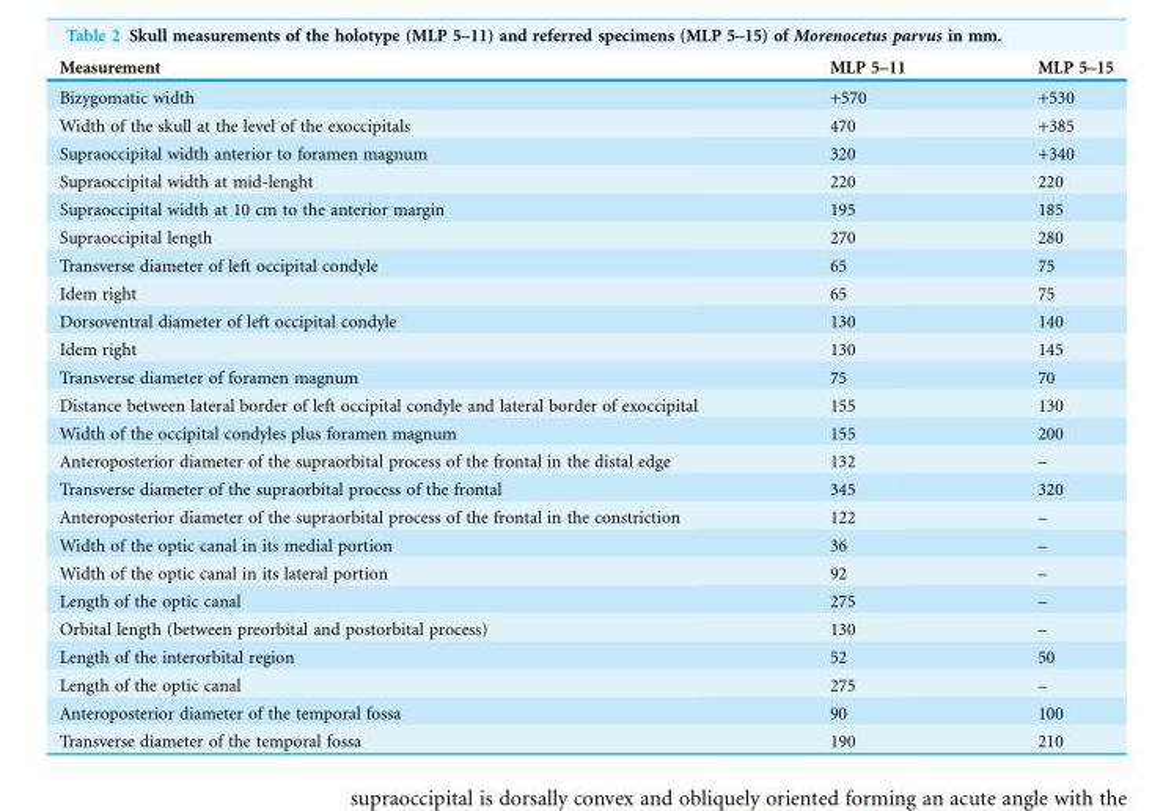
<table><thead><tr><td>Measurement</td><td>MLP 5–11</td><td>MLP 5–15</td></tr></thead><tbody><tr><td>Bizygomatic width</td><td>+570</td><td>+530</td></tr><tr><td>Width of the skull at the level of the exoccipitals</td><td>470</td><td>+385</td></tr><tr><td>Supraoccipital width anterior to foramen magnum</td><td>320</td><td>+340</td></tr><tr><td>Supraoccipital width at mid-lenght</td><td>220</td><td>220</td></tr><tr><td>Supraoccipital width at 10 cm to the anterior margin</td><td>195</td><td>185</td></tr><tr><td>Supraoccipital length</td><td>270</td><td>280</td></tr><tr><td>Transverse diameter of left occipital condyle</td><td>65</td><td>75</td></tr><tr><td>Idem right</td><td>65</td><td>75</td></tr><tr><td>Dorsoventral diameter of left occipital condyle</td><td>130</td><td>140</td></tr><tr><td>Idem right</td><td>130</td><td>145</td></tr><tr><td>Transverse diameter of foramen magnum</td><td>75</td><td>70</td></tr><tr><td>Distance between lateral border of left occipital condyle and lateral border of exoccipital</td><td>155</td><td>130</td></tr><tr><td>Width of the occipital condyles plus foramen magnum</td><td>155</td><td>200</td></tr><tr><td>Anteroposterior diameter of the supraorbital process of the frontal in the distal edge</td><td>132</td><td>–</td></tr><tr><td>Transverse diameter of the supraorbital process of the frontal</td><td>345</td><td>320</td></tr><tr><td>Anteroposterior diameter of the supraorbital process of the frontal in the constriction</td><td>122</td><td>–</td></tr><tr><td>Width of the optic canal in its medial portion</td><td>36</td><td>–</td></tr><tr><td>Width of the optic canal in its lateral portion</td><td>92</td><td>–</td></tr><tr><td>Length of the optic canal</td><td>275</td><td>–</td></tr><tr><td>Orbital length (between preorbital and postorbital process)</td><td>130</td><td>–</td></tr><tr><td>Length of the interorbital region</td><td>52</td><td>50</td></tr><tr><td>Length of the optic canal</td><td>275</td><td>–</td></tr><tr><td>Anteroposterior diameter of the temporal fossa</td><td>90</td><td>100</td></tr><tr><td>Transverse diameter of the temporal fossa</td><td>190</td><td>210</td></tr></tbody></table>